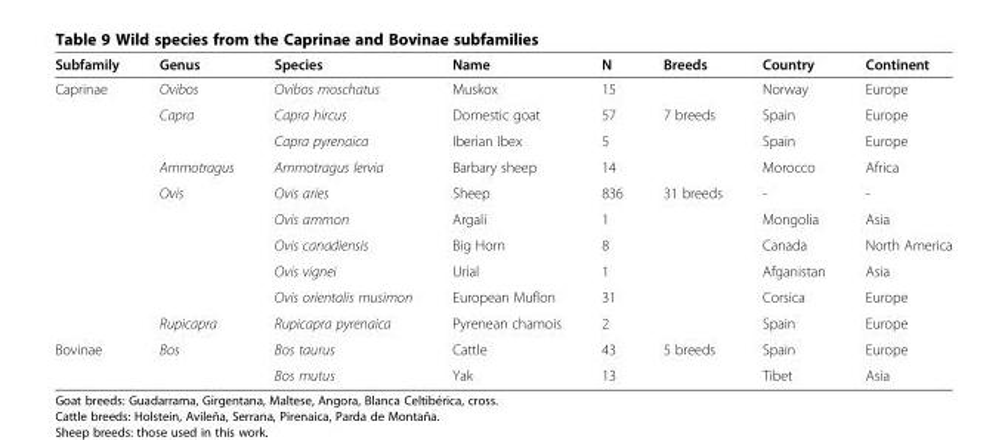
<table><thead><tr><td>Subfamily</td><td>Genus</td><td>Species</td><td>Name</td><td>N</td><td>Breeds</td><td>Country</td><td>Continent</td></tr></thead><tbody><tr><td rowspan="10">Caprinae</td><td>Ovibos</td><td>Ovibos moschatus</td><td>Muskox</td><td>15</td><td></td><td>Norway</td><td>Europe</td></tr><tr><td rowspan="2">Capra</td><td>Capra hircus</td><td>Domestic goat</td><td>57</td><td>7 breeds</td><td>Spain</td><td>Europe</td></tr><tr><td>Capra pyrenaica</td><td>Iberian Ibex</td><td>5</td><td></td><td>Spain</td><td>Europe</td></tr><tr><td>Ammotragus</td><td>Ammotragus lervia</td><td>Barbary sheep</td><td>14</td><td></td><td>Morocco</td><td>Africa</td></tr><tr><td rowspan="5">Ovis</td><td>Ovis aries</td><td>Sheep</td><td>836</td><td>31 breeds</td><td>-</td><td>-</td></tr><tr><td>Ovis ammon</td><td>Argali</td><td>1</td><td></td><td>Mongolia</td><td>Asia</td></tr><tr><td>Ovis canadiensis</td><td>Big Horn</td><td>8</td><td></td><td>Canada</td><td>North America</td></tr><tr><td>Ovis vignei</td><td>Urial</td><td>1</td><td></td><td>Afganistan</td><td>Asia</td></tr><tr><td>Ovis orientalis musimon</td><td>European Muflon</td><td>31</td><td></td><td>Corsica</td><td>Europe</td></tr><tr><td>Rupicapra</td><td>Rupicapra pyrenaica</td><td>Pyrenean chamois</td><td>2</td><td></td><td>Spain</td><td>Europe</td></tr><tr><td rowspan="2">Bovinae</td><td rowspan="2">Bos</td><td>Bos taurus</td><td>Cattle</td><td>43</td><td>5 breeds</td><td>Spain</td><td>Europe</td></tr><tr><td>Bos mutus</td><td>Yak</td><td>13</td><td></td><td>Tibet</td><td>Asia</td></tr></tbody></table>